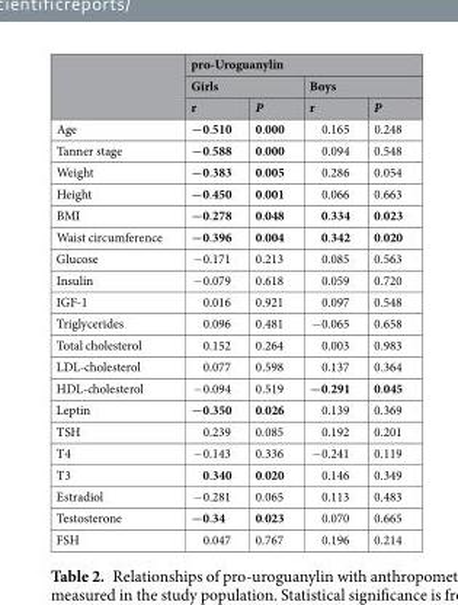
<table><thead><tr><td rowspan="3"></td><td colspan="4">pro-Uroguanylin</td></tr><tr><td colspan="2">Girls</td><td colspan="2">Boys</td></tr><tr><td>r</td><td>P</td><td>r</td><td>P</td></tr></thead><tbody><tr><td>Age</td><td>−0.510</td><td>0.000</td><td>0.165</td><td>0.248</td></tr><tr><td>Tanner stage</td><td>−0.588</td><td>0.000</td><td>0.094</td><td>0.548</td></tr><tr><td>Weight</td><td>−0.383</td><td>0.005</td><td>0.286</td><td>0.054</td></tr><tr><td>Height</td><td>−0.450</td><td>0.001</td><td>0.066</td><td>0.663</td></tr><tr><td>BMI</td><td>−0.278</td><td>0.048</td><td>0.334</td><td>0.023</td></tr><tr><td>Waist circumference</td><td>−0.396</td><td>0.004</td><td>0.342</td><td>0.020</td></tr><tr><td>Glucose</td><td>−0.171</td><td>0.213</td><td>0.085</td><td>0.563</td></tr><tr><td>Insulin</td><td>−0.079</td><td>0.618</td><td>0.059</td><td>0.720</td></tr><tr><td>IGF-1</td><td>0.016</td><td>0.921</td><td>0.097</td><td>0.548</td></tr><tr><td>Triglycerides</td><td>0.096</td><td>0.481</td><td>−0.065</td><td>0.658</td></tr><tr><td>Total cholesterol</td><td>0.152</td><td>0.264</td><td>0.003</td><td>0.983</td></tr><tr><td>LDL-cholesterol</td><td>0.077</td><td>0.598</td><td>0.137</td><td>0.364</td></tr><tr><td>HDL-cholesterol</td><td>−0.094</td><td>0.519</td><td>−0.291</td><td>0.045</td></tr><tr><td>Leptin</td><td>−0.350</td><td>0.026</td><td>0.139</td><td>0.369</td></tr><tr><td>TSH</td><td>0.239</td><td>0.085</td><td>0.192</td><td>0.201</td></tr><tr><td>T4</td><td>−0.143</td><td>0.336</td><td>−0.241</td><td>0.119</td></tr><tr><td>T3</td><td>0.340</td><td>0.020</td><td>0.146</td><td>0.349</td></tr><tr><td>Estradiol</td><td>−0.281</td><td>0.065</td><td>0.113</td><td>0.483</td></tr><tr><td>Testosterone</td><td>−0.34</td><td>0.023</td><td>0.070</td><td>0.665</td></tr><tr><td>FSH</td><td>0.047</td><td>0.767</td><td>0.196</td><td>0.214</td></tr></tbody></table>